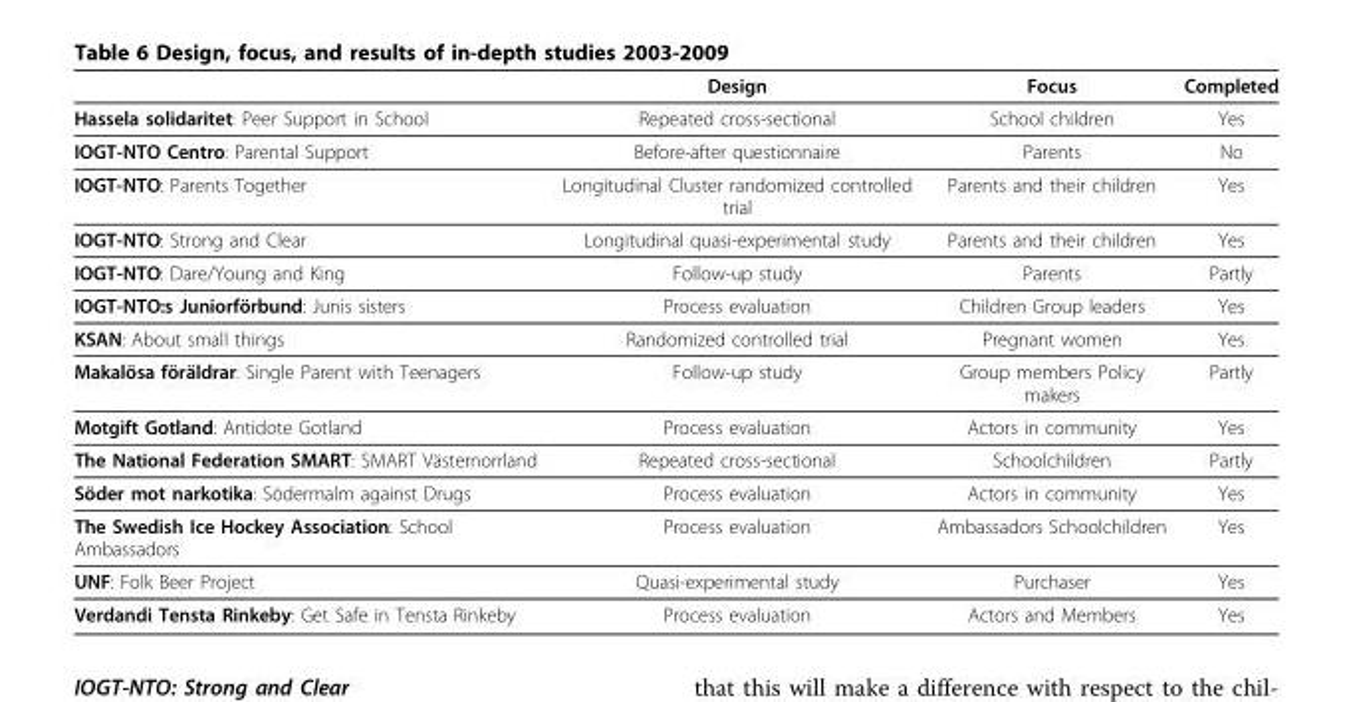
<table><thead><tr><td></td><td>Design</td><td>Focus</td><td>Completed</td></tr></thead><tbody><tr><td>Hassela solidaritet: Peer Support in School</td><td>Repeated cross-sectional</td><td>School children</td><td>Yes</td></tr><tr><td>IOGT-NTO Centro: Parental Support</td><td>Before-after questionnaire</td><td>Parents</td><td>No</td></tr><tr><td>IOGT-NTO: Parents Together</td><td>Longitudinal Cluster randomized controlled trial</td><td>Parents and their children</td><td>Yes</td></tr><tr><td>IOGT-NTO: Strong and Clear</td><td>Longitudinal quasi-experimental study</td><td>Parents and their children</td><td>Yes</td></tr><tr><td>IOGT-NTO: Dare/Young and King</td><td>Follow-up study</td><td>Parents</td><td>Partly</td></tr><tr><td>IOGT-NTO:s Juniorförbund: Junis sisters</td><td>Process evaluation</td><td>Children Group leaders</td><td>Yes</td></tr><tr><td>KSAN: About small things</td><td>Randomized controlled trial</td><td>Pregnant women</td><td>Yes</td></tr><tr><td>Makalösa föräldrar: Single Parent with Teenagers</td><td>Follow-up study</td><td>Group members Policy makers</td><td>Partly</td></tr><tr><td>Motgift Gotland: Antidote Gotland</td><td>Process evaluation</td><td>Actors in community</td><td>Yes</td></tr><tr><td>The National Federation SMART: SMART Västernorrland</td><td>Repeated cross-sectional</td><td>Schoolchildren</td><td>Partly</td></tr><tr><td>Söder mot narkotika: Södermalm against Drugs</td><td>Process evaluation</td><td>Actors in community</td><td>Yes</td></tr><tr><td>The Swedish Ice Hockey Association: School Ambassadors</td><td>Process evaluation</td><td>Ambassadors Schoolchildren</td><td>Yes</td></tr><tr><td>UNF: Folk Beer Project</td><td>Quasi-experimental study</td><td>Purchaser</td><td>Yes</td></tr><tr><td>Verdandi Tensta Rinkeby: Get Safe in Tensta Rinkeby</td><td>Process evaluation</td><td>Actors and Members</td><td>Yes</td></tr></tbody></table>